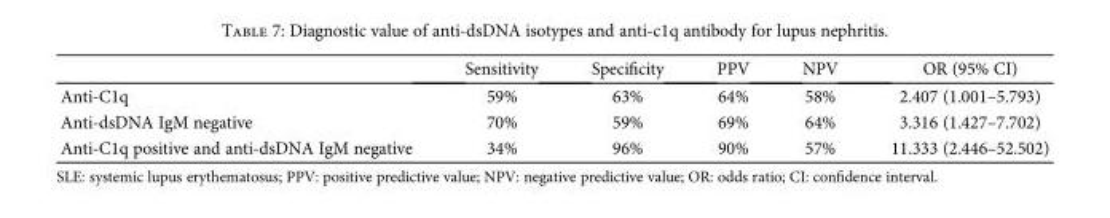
<table><thead><tr><td></td><td>Sensitivity</td><td>Specificity</td><td>PPV</td><td>NPV</td><td>OR (95% CI)</td></tr></thead><tbody><tr><td>Anti-C1q</td><td>59%</td><td>63%</td><td>64%</td><td>58%</td><td>2.407 (1.001–5.793)</td></tr><tr><td>Anti-dsDNA IgM negative</td><td>70%</td><td>59%</td><td>69%</td><td>64%</td><td>3.316 (1.427–7.702)</td></tr><tr><td>Anti-C1q positive and anti-dsDNA IgM negative</td><td>34%</td><td>96%</td><td>90%</td><td>57%</td><td>11.333 (2.446–52.502)</td></tr></tbody></table>